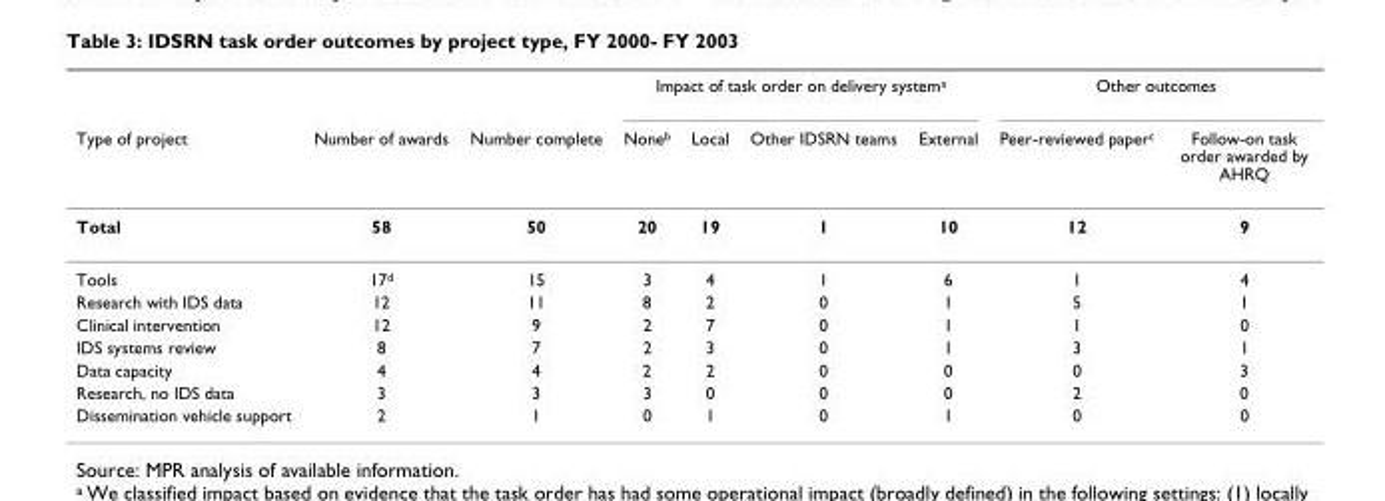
<table><thead><tr><td rowspan="2">Type of project</td><td rowspan="2">Number of awards</td><td rowspan="2">Number complete</td><td colspan="4">Impact of task order on delivery system<sup>a</sup></td><td colspan="2">Other outcomes</td></tr><tr><td>None<sup>b</sup></td><td>Local</td><td>Other IDSRN teams</td><td>External</td><td>Peer-reviewed paper<sup>c</sup></td><td>Follow-on task order awarded by AHRQ</td></tr></thead><tbody><tr><td>Total</td><td>58</td><td>50</td><td>20</td><td>19</td><td>1</td><td>10</td><td>12</td><td>9</td></tr><tr><td>Tools</td><td>17<sup>d</sup></td><td>15</td><td>3</td><td>4</td><td>1</td><td>6</td><td>1</td><td>4</td></tr><tr><td>Research with IDS data</td><td>12</td><td>11</td><td>8</td><td>2</td><td>0</td><td>1</td><td>5</td><td>1</td></tr><tr><td>Clinical intervention</td><td>12</td><td>9</td><td>2</td><td>7</td><td>0</td><td>1</td><td>1</td><td>0</td></tr><tr><td>IDS systems review</td><td>8</td><td>7</td><td>2</td><td>3</td><td>0</td><td>1</td><td>3</td><td>1</td></tr><tr><td>Data capacity</td><td>4</td><td>4</td><td>2</td><td>2</td><td>0</td><td>0</td><td>0</td><td>3</td></tr><tr><td>Research, no IDS data</td><td>3</td><td>3</td><td>3</td><td>0</td><td>0</td><td>0</td><td>2</td><td>0</td></tr><tr><td>Dissemination vehicle support</td><td>2</td><td>1</td><td>0</td><td>1</td><td>0</td><td>1</td><td>0</td><td>0</td></tr></tbody></table>